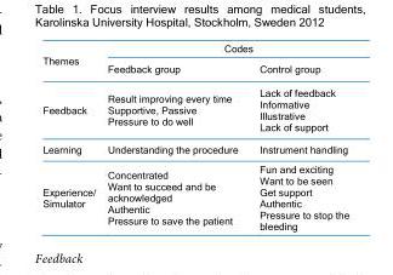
<table><thead><tr><td rowspan="2">Themes</td><td colspan="2">Codes</td></tr><tr><td>Feedback group</td><td>Control group</td></tr></thead><tbody><tr><td>Feedback</td><td>Result improving every time Supportive, Passive Pressure to do well</td><td>Lack of feedback Informative Illustrative Lack of support</td></tr><tr><td>Learning</td><td>Understanding the procedure</td><td>Instrument handling</td></tr><tr><td>Experience/ Simulator</td><td>Concentrated Want to succeed and be acknowledged Authentic Pressure to save the patient</td><td>Fun and exciting Want to be seen Get support Authentic Pressure to stop the bleeding</td></tr></tbody></table>